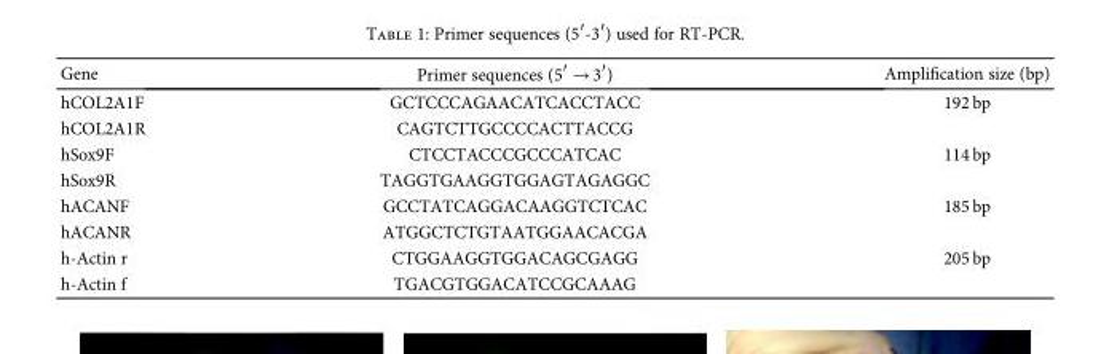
<table><thead><tr><td>Gene</td><td>Primer sequences (5′ → 3′)</td><td>Amplification size (bp)</td></tr></thead><tbody><tr><td>hCOL2A1F</td><td>GCTCCCAGAACATCACCTACC</td><td>192 bp</td></tr><tr><td>hCOL2A1R</td><td>CAGTCTTGCCCCACTTACCG</td><td></td></tr><tr><td>hSox9F</td><td>CTCCTACCCGCCCATCAC</td><td>114 bp</td></tr><tr><td>hSox9R</td><td>TAGGTGAAGGTGGAGTAGAGGC</td><td></td></tr><tr><td>hACANF</td><td>GCCTATCAGGACAAGGTCTCAC</td><td>185 bp</td></tr><tr><td>hACANR</td><td>ATGGCTCTGTAATGGAACACGA</td><td></td></tr><tr><td>h-Actin r</td><td>CTGGAAGGTGGACAGCGAGG</td><td>205 bp</td></tr><tr><td>h-Actin f</td><td>TGACGTGGACATCCGCAAAG</td><td></td></tr></tbody></table>